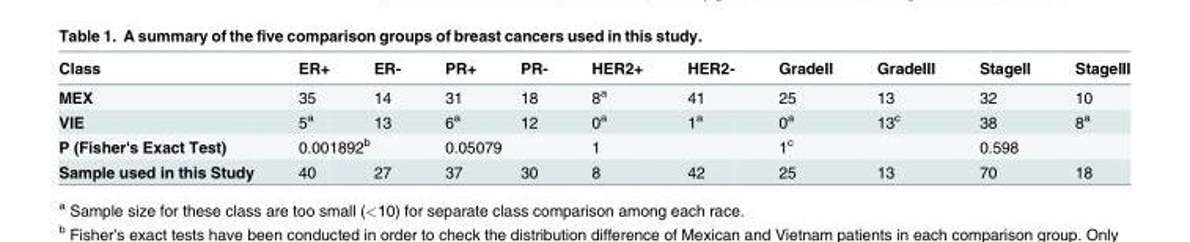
<table><thead><tr><td>Class</td><td>ER+</td><td>ER-</td><td>PR+</td><td>PR-</td><td>HER2+</td><td>HER2-</td><td>GradeII</td><td>GradeIII</td><td>StageII</td><td>StageIII</td></tr></thead><tbody><tr><td>MEX</td><td>35</td><td>14</td><td>31</td><td>18</td><td>8<sup>a</sup></td><td>41</td><td>25</td><td>13</td><td>32</td><td>10</td></tr><tr><td>VIE</td><td>5<sup>a</sup></td><td>13</td><td>6<sup>a</sup></td><td>12</td><td>0<sup>a</sup></td><td>1<sup>a</sup></td><td>0<sup>a</sup></td><td>13<sup>c</sup></td><td>38</td><td>8<sup>a</sup></td></tr><tr><td>P (Fisher&#x27;s Exact Test)</td><td colspan="2">0.001892<sup>b</sup></td><td colspan="2">0.05079</td><td colspan="2">1</td><td colspan="2">1<sup>c</sup></td><td colspan="2">0.598</td></tr><tr><td>Sample used in this Study</td><td>40</td><td>27</td><td>37</td><td>30</td><td>8</td><td>42</td><td>25</td><td>13</td><td>70</td><td>18</td></tr></tbody></table>